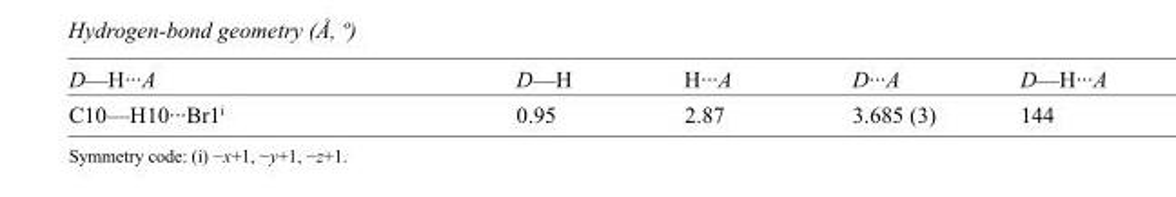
<table><tbody><tr><td>D—H···A</td><td>D—H</td><td>H···A</td><td>D···A</td><td>D—H···A</td></tr><tr><td>C10—H10···Br1<sup>i</sup></td><td>0.95</td><td>2.87</td><td>3.685 (3)</td><td>144</td></tr></tbody></table>